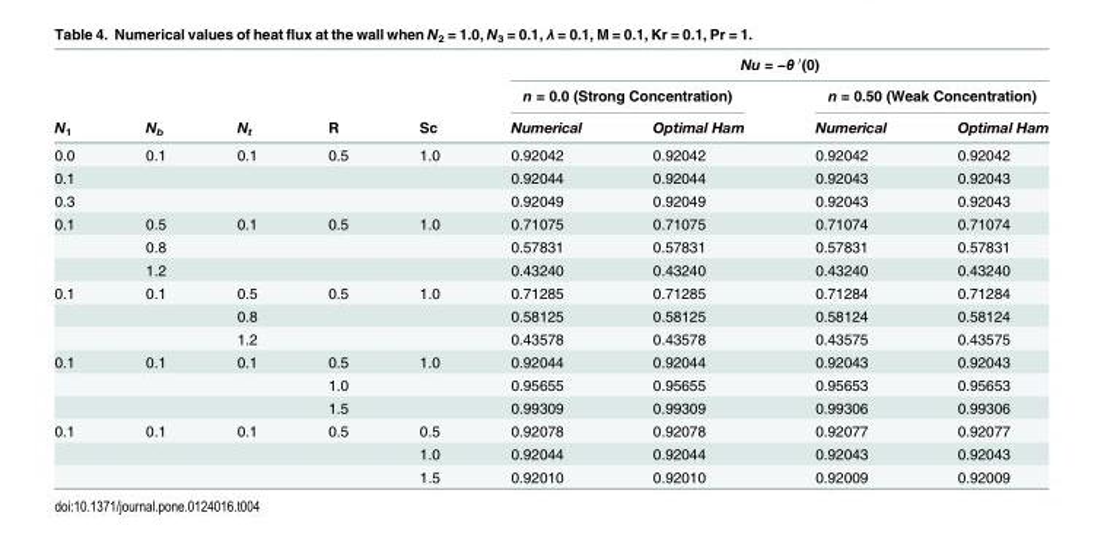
<table><thead><tr><td rowspan="3">N<sub>1</sub></td><td rowspan="3">N<sub>b</sub></td><td rowspan="3">N<sub>t</sub></td><td rowspan="3">R</td><td rowspan="3">Sc</td><td colspan="4">Nu = −θ ′(0)</td></tr><tr><td colspan="2">n = 0.0 (Strong Concentration)</td><td colspan="2">n = 0.50 (Weak Concentration)</td></tr><tr><td>Numerical</td><td>Optimal Ham</td><td>Numerical</td><td>Optimal Ham</td></tr></thead><tbody><tr><td>0.0</td><td>0.1</td><td>0.1</td><td>0.5</td><td>1.0</td><td>0.92042</td><td>0.92042</td><td>0.92042</td><td>0.92042</td></tr><tr><td>0.1</td><td></td><td></td><td></td><td></td><td>0.92044</td><td>0.92044</td><td>0.92043</td><td>0.92043</td></tr><tr><td>0.3</td><td></td><td></td><td></td><td></td><td>0.92049</td><td>0.92049</td><td>0.92043</td><td>0.92043</td></tr><tr><td rowspan="3">0.1</td><td>0.5</td><td>0.1</td><td>0.5</td><td>1.0</td><td>0.71075</td><td>0.71075</td><td>0.71074</td><td>0.71074</td></tr><tr><td>0.8</td><td></td><td></td><td></td><td>0.57831</td><td>0.57831</td><td>0.57831</td><td>0.57831</td></tr><tr><td>1.2</td><td></td><td></td><td></td><td>0.43240</td><td>0.43240</td><td>0.43240</td><td>0.43240</td></tr><tr><td rowspan="3">0.1</td><td>0.1</td><td>0.5</td><td>0.5</td><td>1.0</td><td>0.71285</td><td>0.71285</td><td>0.71284</td><td>0.71284</td></tr><tr><td></td><td>0.8</td><td></td><td></td><td>0.58125</td><td>0.58125</td><td>0.58124</td><td>0.58124</td></tr><tr><td></td><td>1.2</td><td></td><td></td><td>0.43578</td><td>0.43578</td><td>0.43575</td><td>0.43575</td></tr><tr><td rowspan="3">0.1</td><td>0.1</td><td>0.1</td><td>0.5</td><td>1.0</td><td>0.92044</td><td>0.92044</td><td>0.92043</td><td>0.92043</td></tr><tr><td></td><td></td><td>1.0</td><td></td><td>0.95655</td><td>0.95655</td><td>0.95653</td><td>0.95653</td></tr><tr><td></td><td></td><td>1.5</td><td></td><td>0.99309</td><td>0.99309</td><td>0.99306</td><td>0.99306</td></tr><tr><td rowspan="3">0.1</td><td>0.1</td><td>0.1</td><td>0.5</td><td>0.5</td><td>0.92078</td><td>0.92078</td><td>0.92077</td><td>0.92077</td></tr><tr><td></td><td></td><td></td><td>1.0</td><td>0.92044</td><td>0.92044</td><td>0.92043</td><td>0.92043</td></tr><tr><td></td><td></td><td></td><td>1.5</td><td>0.92010</td><td>0.92010</td><td>0.92009</td><td>0.92009</td></tr></tbody></table>